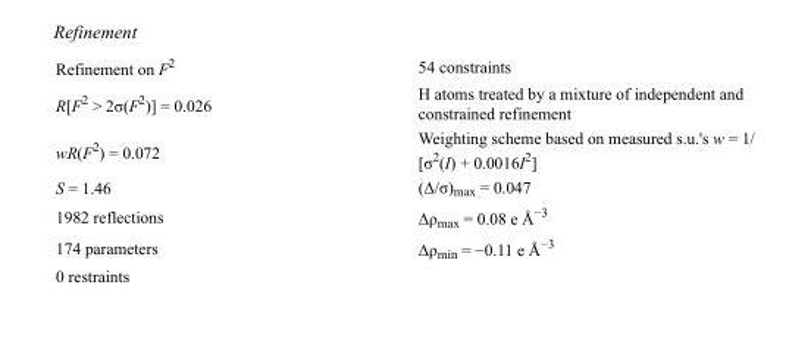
<table><tbody><tr><td>Refinement on F<sup>2</sup></td><td>54 constraints</td></tr><tr><td>R[F<sup>2</sup> &gt; 2σ(F<sup>2</sup>)] = 0.026</td><td>H atoms treated by a mixture of independent and constrained refinement</td></tr><tr><td>wR(F<sup>2</sup>) = 0.072</td><td>Weighting scheme based on measured s.u.&#x27;s w = 1/ [σ<sup>2</sup>(I) + 0.0016I<sup>2</sup>]</td></tr><tr><td>S = 1.46</td><td>(Δ/σ)<sub>max</sub> = 0.047</td></tr><tr><td>1982 reflections</td><td>Δρ<sub>max</sub> = 0.08 e Å<sup>−3</sup></td></tr><tr><td>174 parameters</td><td>Δρ<sub>min</sub> = −0.11 e Å<sup>−3</sup></td></tr><tr><td>0 restraints</td><td></td></tr></tbody></table>